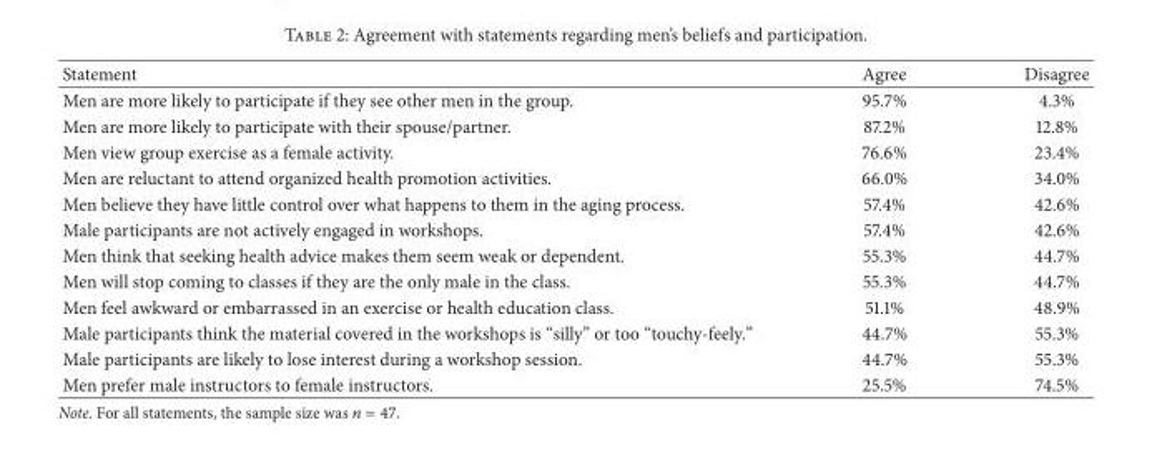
<table><thead><tr><td>Statement</td><td>Agree</td><td>Disagree</td></tr></thead><tbody><tr><td>Men are more likely to participate if they see other men in the group.</td><td>95.7%</td><td>4.3%</td></tr><tr><td>Men are more likely to participate with their spouse/partner.</td><td>87.2%</td><td>12.8%</td></tr><tr><td>Men view group exercise as a female activity.</td><td>76.6%</td><td>23.4%</td></tr><tr><td>Men are reluctant to attend organized health promotion activities.</td><td>66.0%</td><td>34.0%</td></tr><tr><td>Men believe they have little control over what happens to them in the aging process.</td><td>57.4%</td><td>42.6%</td></tr><tr><td>Male participants are not actively engaged in workshops.</td><td>57.4%</td><td>42.6%</td></tr><tr><td>Men think that seeking health advice makes them seem weak or dependent.</td><td>55.3%</td><td>44.7%</td></tr><tr><td>Men will stop coming to classes if they are the only male in the class.</td><td>55.3%</td><td>44.7%</td></tr><tr><td>Men feel awkward or embarrassed in an exercise or health education class.</td><td>51.1%</td><td>48.9%</td></tr><tr><td>Male participants think the material covered in the workshops is “silly” or too “touchy-feely.”</td><td>44.7%</td><td>55.3%</td></tr><tr><td>Male participants are likely to lose interest during a workshop session.</td><td>44.7%</td><td>55.3%</td></tr><tr><td>Men prefer male instructors to female instructors.</td><td>25.5%</td><td>74.5%</td></tr></tbody></table>